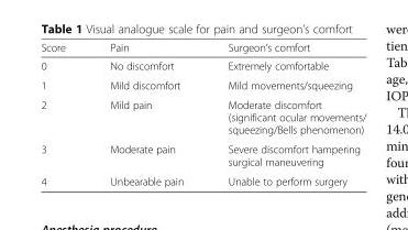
<table><thead><tr><td>Score</td><td>Pain</td><td>Surgeon’s comfort</td></tr></thead><tbody><tr><td>0</td><td>No discomfort</td><td>Extremely comfortable</td></tr><tr><td>1</td><td>Mild discomfort</td><td>Mild movements/squeezing</td></tr><tr><td>2</td><td>Mild pain</td><td>Moderate discomfort (significant ocular movements/ squeezing/Bells phenomenon)</td></tr><tr><td>3</td><td>Moderate pain</td><td>Severe discomfort hampering surgical maneuvering</td></tr><tr><td>4</td><td>Unbearable pain</td><td>Unable to perform surgery</td></tr></tbody></table>